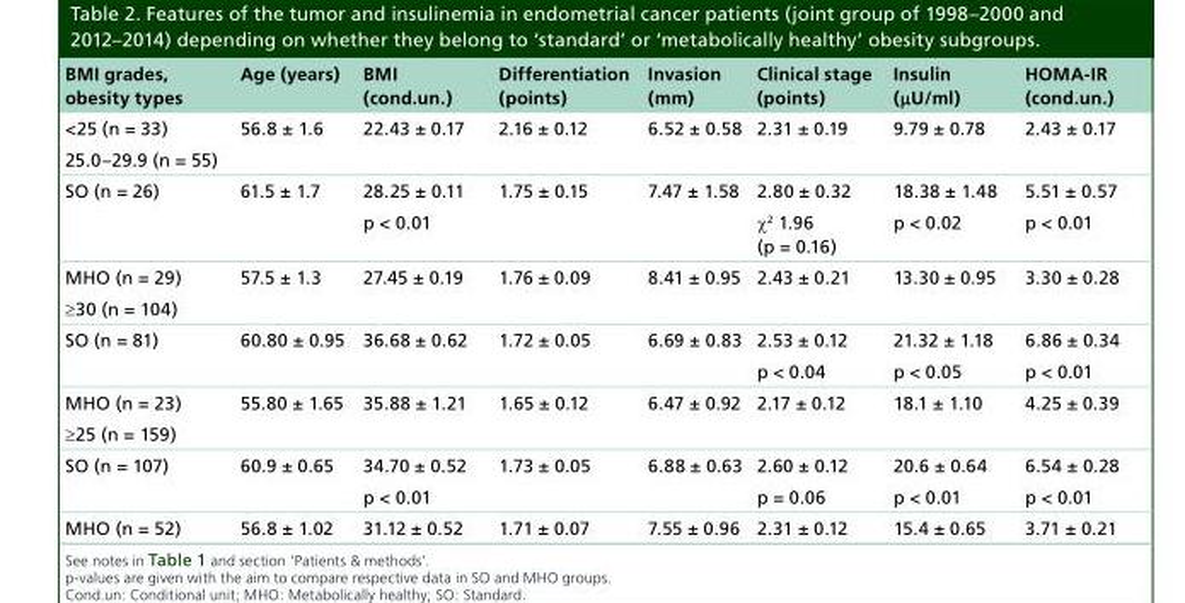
<table><thead><tr><td>BMI grades, obesity types</td><td>Age (years)</td><td>BMI (cond.un.)</td><td>Differentiation (points)</td><td>Invasion (mm)</td><td>Clinical stage (points)</td><td>Insulin (μU/ml)</td><td>HOMA-IR (cond.un.)</td></tr></thead><tbody><tr><td>&lt;25 (n = 33)</td><td>56.8 ± 1.6</td><td>22.43 ± 0.17</td><td>2.16 ± 0.12</td><td>6.52 ± 0.58</td><td>2.31 ± 0.19</td><td>9.79 ± 0.78</td><td>2.43 ± 0.17</td></tr><tr><td colspan="8">25.0–29.9 (n = 55)</td></tr><tr><td rowspan="2">SO (n = 26)</td><td>61.5 ± 1.7</td><td>28.25 ± 0.11</td><td>1.75 ± 0.15</td><td>7.47 ± 1.58</td><td>2.80 ± 0.32</td><td>18.38 ± 1.48</td><td>5.51 ± 0.57</td></tr><tr><td></td><td>p &lt; 0.01</td><td></td><td></td><td>χ<sup>2</sup> 1.96 (p = 0.16)</td><td>p &lt; 0.02</td><td>p &lt; 0.01</td></tr><tr><td>MHO (n = 29)</td><td>57.5 ± 1.3</td><td>27.45 ± 0.19</td><td>1.76 ± 0.09</td><td>8.41 ± 0.95</td><td>2.43 ± 0.21</td><td>13.30 ± 0.95</td><td>3.30 ± 0.28</td></tr><tr><td colspan="8">≥30 (n = 104)</td></tr><tr><td rowspan="2">SO (n = 81)</td><td>60.80 ± 0.95</td><td>36.68 ± 0.62</td><td>1.72 ± 0.05</td><td>6.69 ± 0.83</td><td>2.53 ± 0.12</td><td>21.32 ± 1.18</td><td>6.86 ± 0.34</td></tr><tr><td></td><td></td><td></td><td></td><td>p &lt; 0.04</td><td>p &lt; 0.05</td><td>p &lt; 0.01</td></tr><tr><td>MHO (n = 23)</td><td>55.80 ± 1.65</td><td>35.88 ± 1.21</td><td>1.65 ± 0.12</td><td>6.47 ± 0.92</td><td>2.17 ± 0.12</td><td>18.1 ± 1.10</td><td>4.25 ± 0.39</td></tr><tr><td colspan="8">≥25 (n = 159)</td></tr><tr><td rowspan="2">SO (n = 107)</td><td>60.9 ± 0.65</td><td>34.70 ± 0.52</td><td>1.73 ± 0.05</td><td>6.88 ± 0.63</td><td>2.60 ± 0.12</td><td>20.6 ± 0.64</td><td>6.54 ± 0.28</td></tr><tr><td></td><td>p &lt; 0.01</td><td></td><td></td><td>p = 0.06</td><td>p &lt; 0.01</td><td>p &lt; 0.01</td></tr><tr><td>MHO (n = 52)</td><td>56.8 ± 1.02</td><td>31.12 ± 0.52</td><td>1.71 ± 0.07</td><td>7.55 ± 0.96</td><td>2.31 ± 0.12</td><td>15.4 ± 0.65</td><td>3.71 ± 0.21</td></tr></tbody></table>